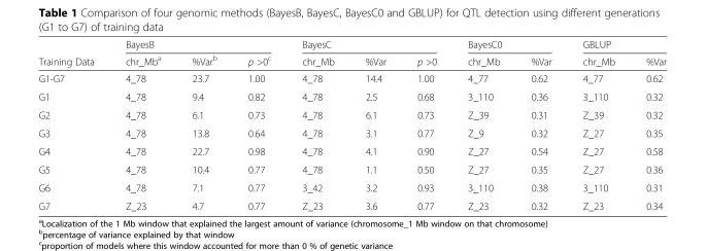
<table><thead><tr><td rowspan="2">Training Data</td><td colspan="3">BayesB</td><td colspan="3">BayesC</td><td colspan="2">BayesC0</td><td colspan="2">GBLUP</td></tr><tr><td>chr_Mb<sup>a</sup></td><td>%Var<sup>b</sup></td><td>p &gt;0<sup>c</sup></td><td>chr_Mb</td><td>%Var</td><td>p &gt;0</td><td>chr_Mb</td><td>%Var</td><td>chr_Mb</td><td>%Var</td></tr></thead><tbody><tr><td>G1-G7</td><td>4_78</td><td>23.7</td><td>1.00</td><td>4_78</td><td>14.4</td><td>1.00</td><td>4_77</td><td>0.62</td><td>4_77</td><td>0.62</td></tr><tr><td>G1</td><td>4_78</td><td>9.4</td><td>0.82</td><td>4_78</td><td>2.5</td><td>0.68</td><td>3_110</td><td>0.36</td><td>3_110</td><td>0.32</td></tr><tr><td>G2</td><td>4_78</td><td>6.1</td><td>0.73</td><td>4_78</td><td>6.1</td><td>0.73</td><td>Z_39</td><td>0.31</td><td>Z_39</td><td>0.32</td></tr><tr><td>G3</td><td>4_78</td><td>13.8</td><td>0.64</td><td>4_78</td><td>3.1</td><td>0.77</td><td>Z_9</td><td>0.32</td><td>Z_27</td><td>0.35</td></tr><tr><td>G4</td><td>4_78</td><td>22.7</td><td>0.98</td><td>4_78</td><td>4.1</td><td>0.90</td><td>Z_27</td><td>0.54</td><td>Z_27</td><td>0.58</td></tr><tr><td>G5</td><td>4_78</td><td>10.4</td><td>0.77</td><td>4_78</td><td>1.1</td><td>0.50</td><td>Z_27</td><td>0.35</td><td>Z_27</td><td>0.36</td></tr><tr><td>G6</td><td>4_78</td><td>7.1</td><td>0.77</td><td>3_42</td><td>3.2</td><td>0.93</td><td>3_110</td><td>0.38</td><td>3_110</td><td>0.31</td></tr><tr><td>G7</td><td>Z_23</td><td>4.7</td><td>0.77</td><td>Z_23</td><td>3.6</td><td>0.77</td><td>Z_23</td><td>0.32</td><td>Z_23</td><td>0.34</td></tr></tbody></table>